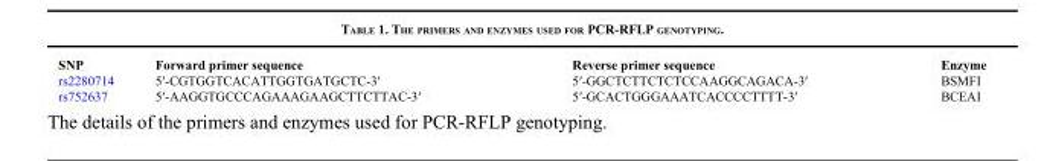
<table><thead><tr><td>SNP</td><td>Forward primer sequence</td><td>Reverse primer sequence</td><td>Enzyme</td></tr></thead><tbody><tr><td>rs2280714</td><td>5′-CGTGGTCACATTGGTGATGCTC-3′</td><td>5′-GGCTCTTCTCTCCAAGGCAGACA-3′</td><td>BSMFI</td></tr><tr><td>rs752637</td><td>5′-AAGGTGCCCAGAAAGAAGCTTCTTAC-3′</td><td>5′-GCACTGGGAAATCACCCCTTTT-3′</td><td>BCEAI</td></tr></tbody></table>